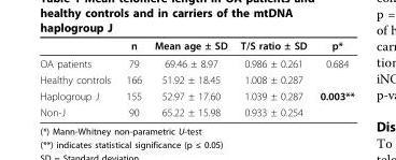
<table><thead><tr><td></td><td>n</td><td>Mean age ± SD</td><td>T/S ratio ± SD</td><td>p*</td></tr></thead><tbody><tr><td>OA patients</td><td>79</td><td>69.46 ± 8.97</td><td>0.986 ± 0.261</td><td>0.684</td></tr><tr><td>Healthy controls</td><td>166</td><td>51.92 ± 18.45</td><td>1.008 ± 0.287</td><td></td></tr><tr><td>Haplogroup J</td><td>155</td><td>52.97 ± 17.60</td><td>1.039 ± 0.287</td><td>0.003**</td></tr><tr><td>Non-J</td><td>90</td><td>65.22 ± 15.98</td><td>0.933 ± 0.254</td><td></td></tr></tbody></table>